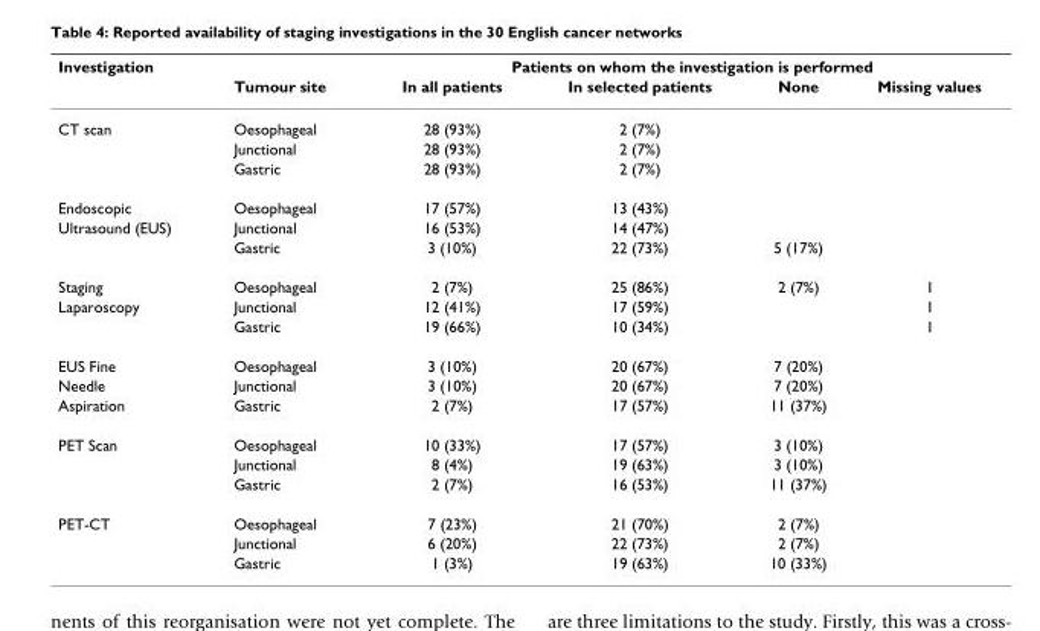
<table><thead><tr><td rowspan="2">Investigation</td><td rowspan="2">Tumour site</td><td colspan="4">Patients on whom the investigation is performed</td></tr><tr><td>In all patients</td><td>In selected patients</td><td>None</td><td>Missing values</td></tr></thead><tbody><tr><td rowspan="3">CT scan</td><td>Oesophageal</td><td>28 (93%)</td><td>2 (7%)</td><td></td><td></td></tr><tr><td>Junctional</td><td>28 (93%)</td><td>2 (7%)</td><td></td><td></td></tr><tr><td>Gastric</td><td>28 (93%)</td><td>2 (7%)</td><td></td><td></td></tr><tr><td>Endoscopic</td><td>Oesophageal</td><td>17 (57%)</td><td>13 (43%)</td><td></td><td></td></tr><tr><td rowspan="2">Ultrasound (EUS)</td><td>Junctional</td><td>16 (53%)</td><td>14 (47%)</td><td></td><td></td></tr><tr><td>Gastric</td><td>3 (10%)</td><td>22 (73%)</td><td>5 (17%)</td><td></td></tr><tr><td>Staging</td><td>Oesophageal</td><td>2 (7%)</td><td>25 (86%)</td><td>2 (7%)</td><td>1</td></tr><tr><td rowspan="2">Laparoscopy</td><td>Junctional</td><td>12 (41%)</td><td>17 (59%)</td><td></td><td>1</td></tr><tr><td>Gastric</td><td>19 (66%)</td><td>10 (34%)</td><td></td><td>1</td></tr><tr><td>EUS Fine</td><td>Oesophageal</td><td>3 (10%)</td><td>20 (67%)</td><td>7 (20%)</td><td></td></tr><tr><td>Needle</td><td>Junctional</td><td>3 (10%)</td><td>20 (67%)</td><td>7 (20%)</td><td></td></tr><tr><td>Aspiration</td><td>Gastric</td><td>2 (7%)</td><td>17 (57%)</td><td>11 (37%)</td><td></td></tr><tr><td rowspan="3">PET Scan</td><td>Oesophageal</td><td>10 (33%)</td><td>17 (57%)</td><td>3 (10%)</td><td></td></tr><tr><td>Junctional</td><td>8 (4%)</td><td>19 (63%)</td><td>3 (10%)</td><td></td></tr><tr><td>Gastric</td><td>2 (7%)</td><td>16 (53%)</td><td>11 (37%)</td><td></td></tr><tr><td rowspan="3">PET-CT</td><td>Oesophageal</td><td>7 (23%)</td><td>21 (70%)</td><td>2 (7%)</td><td></td></tr><tr><td>Junctional</td><td>6 (20%)</td><td>22 (73%)</td><td>2 (7%)</td><td></td></tr><tr><td>Gastric</td><td>1 (3%)</td><td>19 (63%)</td><td>10 (33%)</td><td></td></tr></tbody></table>